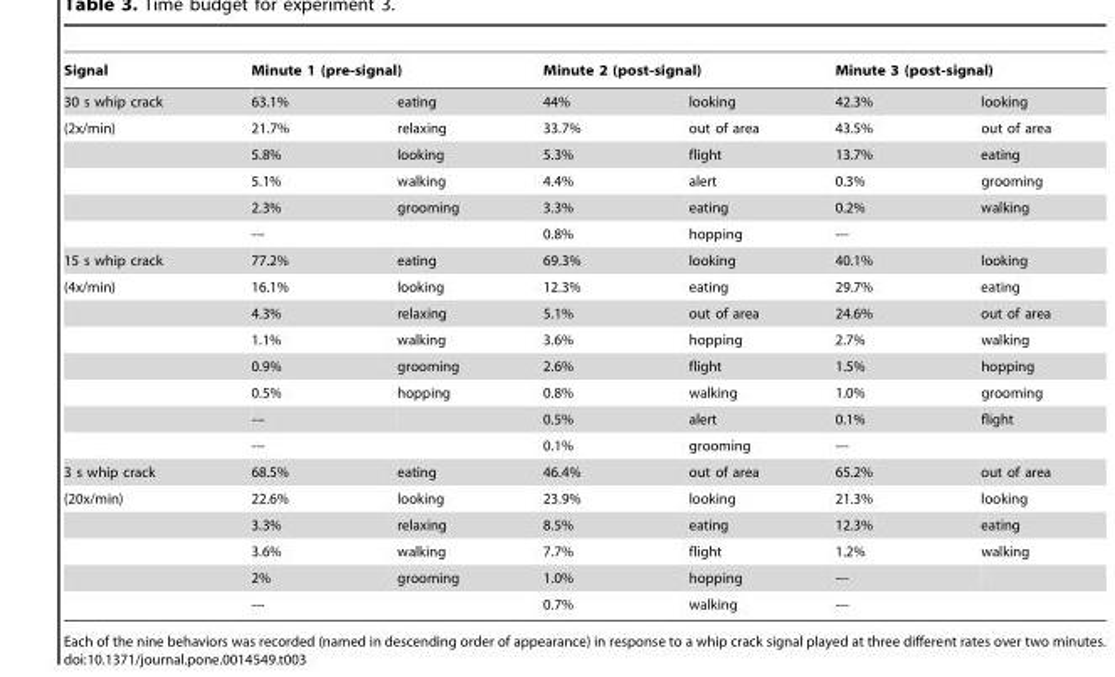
<table><thead><tr><td rowspan="2">Signal 30 s whip crack</td><td colspan="2">Minute 1 (pre-signal)</td><td colspan="2">Minute 2 (post-signal)</td><td colspan="2">Minute 3 (post-signal)</td></tr><tr><td>63.1%</td><td>eating</td><td>44%</td><td>looking</td><td>42.3%</td><td>looking</td></tr></thead><tbody><tr><td rowspan="5">(2x/min)</td><td>21.7%</td><td>relaxing</td><td>33.7%</td><td>out of area</td><td>43.5%</td><td>out of area</td></tr><tr><td>5.8%</td><td>looking</td><td>5.3%</td><td>flight</td><td>13.7%</td><td>eating</td></tr><tr><td>5.1%</td><td>walking</td><td>4.4%</td><td>alert</td><td>0.3%</td><td>grooming</td></tr><tr><td>2.3%</td><td>grooming</td><td>3.3%</td><td>eating</td><td>0.2%</td><td>walking</td></tr><tr><td>---</td><td></td><td>0.8%</td><td>hopping</td><td>---</td><td></td></tr><tr><td>15 s whip crack</td><td>77.2%</td><td>eating</td><td>69.3%</td><td>looking</td><td>40.1%</td><td>looking</td></tr><tr><td rowspan="7">(4x/min)</td><td>16.1%</td><td>looking</td><td>12.3%</td><td>eating</td><td>29.7%</td><td>eating</td></tr><tr><td>4.3%</td><td>relaxing</td><td>5.1%</td><td>out of area</td><td>24.6%</td><td>out of area</td></tr><tr><td>1.1%</td><td>walking</td><td>3.6%</td><td>hopping</td><td>2.7%</td><td>walking</td></tr><tr><td>0.9%</td><td>grooming</td><td>2.6%</td><td>flight</td><td>1.5%</td><td>hopping</td></tr><tr><td>0.5%</td><td>hopping</td><td>0.8%</td><td>walking</td><td>1.0%</td><td>grooming</td></tr><tr><td>---</td><td></td><td>0.5%</td><td>alert</td><td>0.1%</td><td>flight</td></tr><tr><td>---</td><td></td><td>0.1%</td><td>grooming</td><td>---</td><td></td></tr><tr><td>3 s whip crack</td><td>68.5%</td><td>eating</td><td>46.4%</td><td>out of area</td><td>65.2%</td><td>out of area</td></tr><tr><td rowspan="5">(20x/min)</td><td>22.6%</td><td>looking</td><td>23.9%</td><td>looking</td><td>21.3%</td><td>looking</td></tr><tr><td>3.3%</td><td>relaxing</td><td>8.5%</td><td>eating</td><td>12.3%</td><td>eating</td></tr><tr><td>3.6%</td><td>walking</td><td>7.7%</td><td>flight</td><td>1.2%</td><td>walking</td></tr><tr><td>2%</td><td>grooming</td><td>1.0%</td><td>hopping</td><td>---</td><td></td></tr><tr><td>---</td><td></td><td>0.7%</td><td>walking</td><td>---</td><td></td></tr></tbody></table>